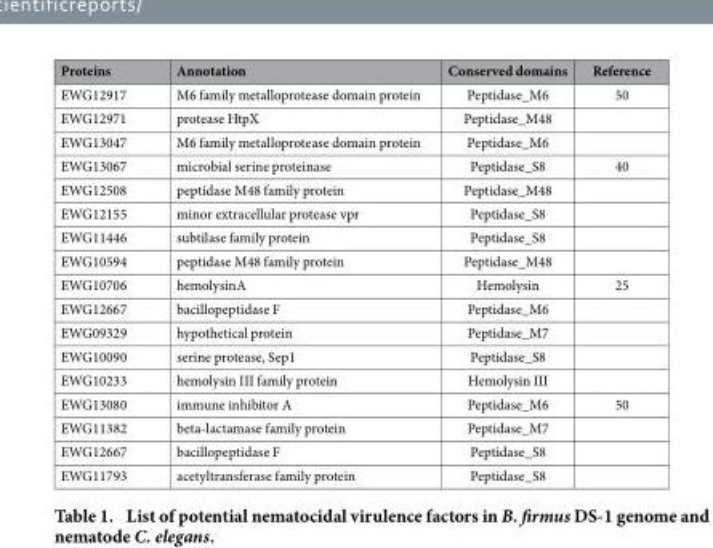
<table><thead><tr><td>Proteins</td><td>Annotation</td><td>Conserved domains</td><td>Reference</td></tr></thead><tbody><tr><td>EWG12917</td><td>M6 family metalloprotease domain protein</td><td>Peptidase_M6</td><td>50</td></tr><tr><td>EWG12971</td><td>protease HtpX</td><td>Peptidase_M48</td><td></td></tr><tr><td>EWG13047</td><td>M6 family metalloprotease domain protein</td><td>Peptidase_M6</td><td></td></tr><tr><td>EWG13067</td><td>microbial serine proteinase</td><td>Peptidase_S8</td><td>40</td></tr><tr><td>EWG12508</td><td>peptidase M48 family protein</td><td>Peptidase_M48</td><td></td></tr><tr><td>EWG12155</td><td>minor extracellular protease vpr</td><td>Peptidase_S8</td><td></td></tr><tr><td>EWG11446</td><td>subtilase family protein</td><td>Peptidase_S8</td><td></td></tr><tr><td>EWG10594</td><td>peptidase M48 family protein</td><td>Peptidase_M48</td><td></td></tr><tr><td>EWG10706</td><td>hemolysinA</td><td>Hemolysin</td><td>25</td></tr><tr><td>EWG12667</td><td>bacillopeptidase F</td><td>Peptidase_M6</td><td></td></tr><tr><td>EWG09329</td><td>hypothetical protein</td><td>Peptidase_M7</td><td></td></tr><tr><td>EWG10090</td><td>serine protease, Sep1</td><td>Peptidase_S8</td><td></td></tr><tr><td>EWG10233</td><td>hemolysin III family protein</td><td>Hemolysin III</td><td></td></tr><tr><td>EWG13080</td><td>immune inhibitor A</td><td>Peptidase_M6</td><td>50</td></tr><tr><td>EWG11382</td><td>beta-lactamase family protein</td><td>Peptidase_M7</td><td></td></tr><tr><td>EWG12667</td><td>bacillopeptidase F</td><td>Peptidase_S8</td><td></td></tr><tr><td>EWG11793</td><td>acetyltransferase family protein</td><td>Peptidase_S8</td><td></td></tr></tbody></table>